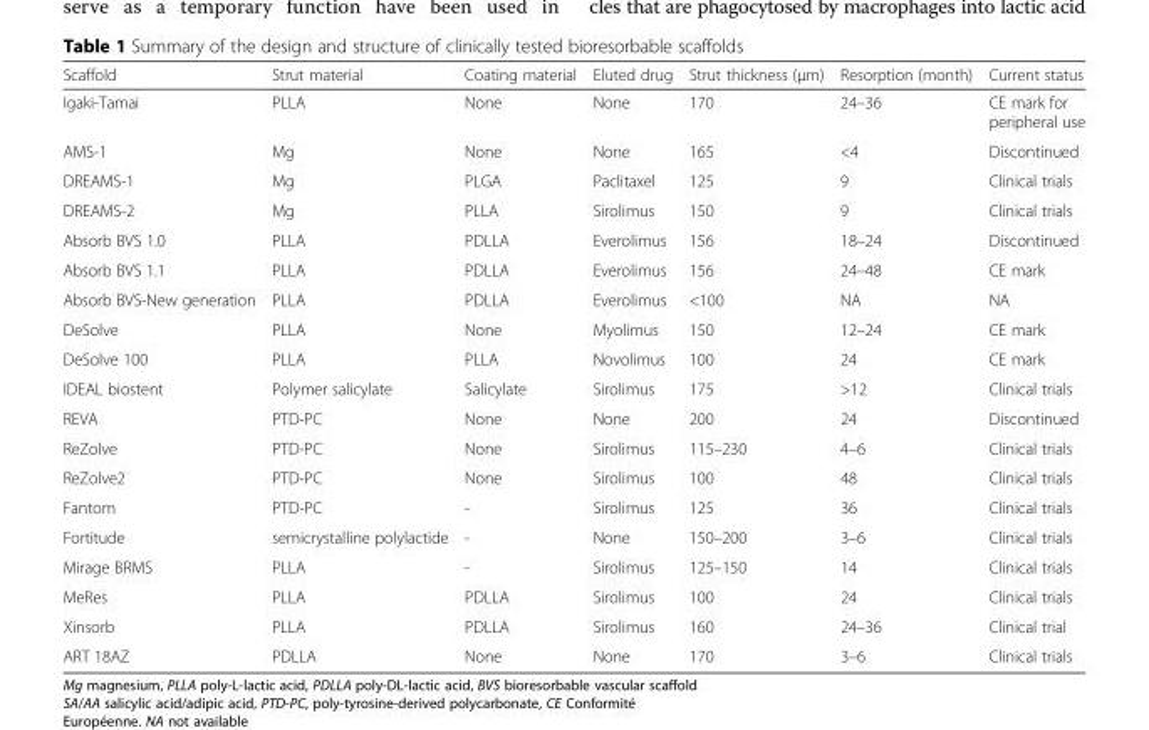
<table><thead><tr><td>Scaffold</td><td>Strut material</td><td>Coating material</td><td>Eluted drug</td><td>Strut thickness (μm)</td><td>Resorption (month)</td><td>Current status</td></tr></thead><tbody><tr><td>Igaki-Tamai</td><td>PLLA</td><td>None</td><td>None</td><td>170</td><td>24–36</td><td>CE mark for peripheral use</td></tr><tr><td>AMS-1</td><td>Mg</td><td>None</td><td>None</td><td>165</td><td>&lt;4</td><td>Discontinued</td></tr><tr><td>DREAMS-1</td><td>Mg</td><td>PLGA</td><td>Paclitaxel</td><td>125</td><td>9</td><td>Clinical trials</td></tr><tr><td>DREAMS-2</td><td>Mg</td><td>PLLA</td><td>Sirolimus</td><td>150</td><td>9</td><td>Clinical trials</td></tr><tr><td>Absorb BVS 1.0</td><td>PLLA</td><td>PDLLA</td><td>Everolimus</td><td>156</td><td>18–24</td><td>Discontinued</td></tr><tr><td>Absorb BVS 1.1</td><td>PLLA</td><td>PDLLA</td><td>Everolimus</td><td>156</td><td>24–48</td><td>CE mark</td></tr><tr><td>Absorb BVS-New generation</td><td>PLLA</td><td>PDLLA</td><td>Everolimus</td><td>&lt;100</td><td>NA</td><td>NA</td></tr><tr><td>DeSolve</td><td>PLLA</td><td>None</td><td>Myolimus</td><td>150</td><td>12–24</td><td>CE mark</td></tr><tr><td>DeSolve 100</td><td>PLLA</td><td>PLLA</td><td>Novolimus</td><td>100</td><td>24</td><td>CE mark</td></tr><tr><td>IDEAL biostent</td><td>Polymer salicylate</td><td>Salicylate</td><td>Sirolimus</td><td>175</td><td>&gt;12</td><td>Clinical trials</td></tr><tr><td>REVA</td><td>PTD-PC</td><td>None</td><td>None</td><td>200</td><td>24</td><td>Discontinued</td></tr><tr><td>ReZolve</td><td>PTD-PC</td><td>None</td><td>Sirolimus</td><td>115–230</td><td>4–6</td><td>Clinical trials</td></tr><tr><td>ReZolve2</td><td>PTD-PC</td><td>None</td><td>Sirolimus</td><td>100</td><td>48</td><td>Clinical trials</td></tr><tr><td>Fantom</td><td>PTD-PC</td><td>-</td><td>Sirolimus</td><td>125</td><td>36</td><td>Clinical trials</td></tr><tr><td>Fortitude</td><td>semicrystalline polylactide</td><td>-</td><td>None</td><td>150–200</td><td>3–6</td><td>Clinical trials</td></tr><tr><td>Mirage BRMS</td><td>PLLA</td><td>-</td><td>Sirolimus</td><td>125–150</td><td>14</td><td>Clinical trials</td></tr><tr><td>MeRes</td><td>PLLA</td><td>PDLLA</td><td>Sirolimus</td><td>100</td><td>24</td><td>Clinical trials</td></tr><tr><td>Xinsorb</td><td>PLLA</td><td>PDLLA</td><td>Sirolimus</td><td>160</td><td>24–36</td><td>Clinical trial</td></tr><tr><td>ART 18AZ</td><td>PDLLA</td><td>None</td><td>None</td><td>170</td><td>3–6</td><td>Clinical trials</td></tr></tbody></table>